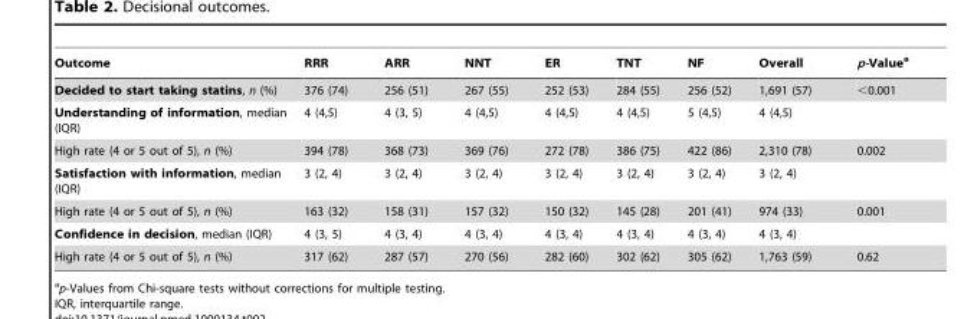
<table><thead><tr><td>Outcome</td><td>RRR</td><td>ARR</td><td>NNT</td><td>ER</td><td>TNT</td><td>NF</td><td>Overall</td><td>p-Value<sup>a</sup></td></tr></thead><tbody><tr><td>Decided to start taking statins, n (%)</td><td>376 (74)</td><td>256 (51)</td><td>267 (55)</td><td>252 (53)</td><td>284 (55)</td><td>256 (52)</td><td>1,691 (57)</td><td>&lt;0.001</td></tr><tr><td>Understanding of information, median (IQR)</td><td>4 (4,5)</td><td>4 (3, 5)</td><td>4 (4,5)</td><td>4 (4,5)</td><td>4 (4,5)</td><td>5 (4,5)</td><td>4 (4,5)</td><td></td></tr><tr><td>High rate (4 or 5 out of 5), n (%)</td><td>394 (78)</td><td>368 (73)</td><td>369 (76)</td><td>272 (78)</td><td>386 (75)</td><td>422 (86)</td><td>2,310 (78)</td><td>0.002</td></tr><tr><td>Satisfaction with information, median (IQR)</td><td>3 (2, 4)</td><td>3 (2, 4)</td><td>3 (2, 4)</td><td>3 (2, 4)</td><td>3 (2, 4)</td><td>3 (2, 4)</td><td>3 (2, 4)</td><td></td></tr><tr><td>High rate (4 or 5 out of 5), n (%)</td><td>163 (32)</td><td>158 (31)</td><td>157 (32)</td><td>150 (32)</td><td>145 (28)</td><td>201 (41)</td><td>974 (33)</td><td>0.001</td></tr><tr><td>Confidence in decision, median (IQR)</td><td>4 (3, 5)</td><td>4 (3, 4)</td><td>4 (3, 4)</td><td>4 (3, 4)</td><td>4 (3, 4)</td><td>4 (3, 4)</td><td>4 (3, 4)</td><td></td></tr><tr><td>High rate (4 or 5 out of 5), n (%)</td><td>317 (62)</td><td>287 (57)</td><td>270 (56)</td><td>282 (60)</td><td>302 (62)</td><td>305 (62)</td><td>1,763 (59)</td><td>0.62</td></tr></tbody></table>